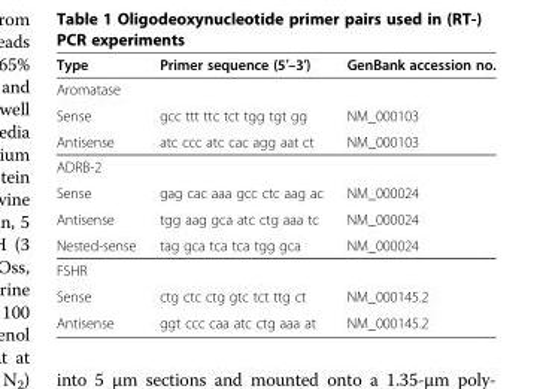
<table><thead><tr><td>Type</td><td>Primer sequence (5′–3′)</td><td>GenBank accession no.</td></tr></thead><tbody><tr><td colspan="3">Aromatase</td></tr><tr><td>Sense</td><td>gcc ttt ttc tct tgg tgt gg</td><td>NM_000103</td></tr><tr><td>Antisense</td><td>atc ccc atc cac agg aat ct</td><td>NM_000103</td></tr><tr><td colspan="3">ADRB-2</td></tr><tr><td>Sense</td><td>gag cac aaa gcc ctc aag ac</td><td>NM_000024</td></tr><tr><td>Antisense</td><td>tgg aag gca atc ctg aaa tc</td><td>NM_000024</td></tr><tr><td>Nested-sense</td><td>tag gca tca tca tgg gca</td><td>NM_000024</td></tr><tr><td colspan="3">FSHR</td></tr><tr><td>Sense</td><td>ctg ctc ctg gtc tct ttg ct</td><td>NM_000145.2</td></tr><tr><td>Antisense</td><td>ggt ccc caa atc ctg aaa at</td><td>NM_000145.2</td></tr></tbody></table>